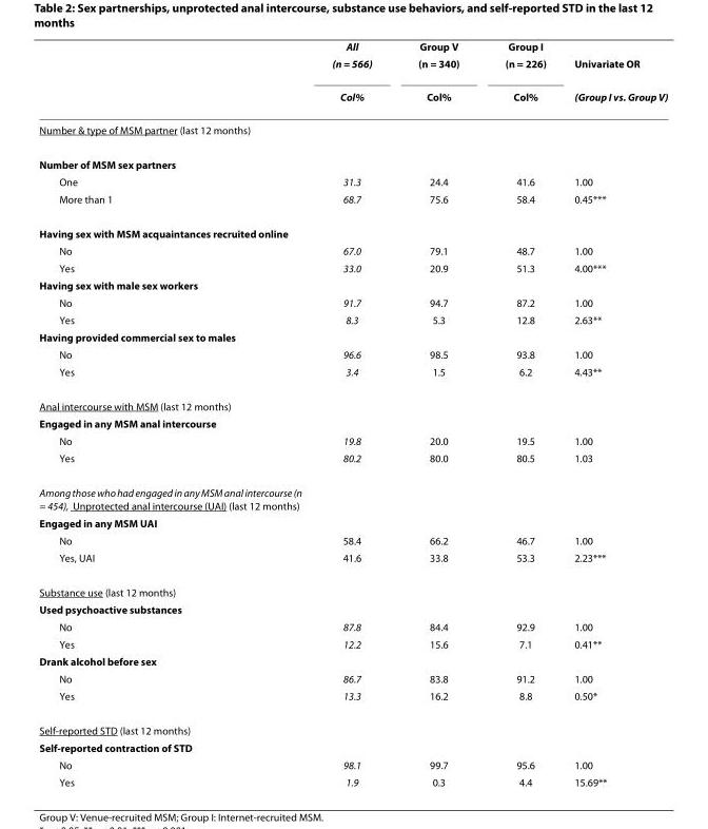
<table><thead><tr><td rowspan="3"></td><td rowspan="3">All (n = 566) Col%</td><td rowspan="3">Group V (n = 340) Col%</td><td rowspan="3">Group I (n = 226) Col%</td><td rowspan="3">Univariate OR (Group I vs. Group V)</td></tr><tr></tr><tr></tr></thead><tbody><tr><td colspan="5">Number &amp; type of MSM partner (last 12 months)</td></tr><tr><td colspan="5">Number of MSM sex partners</td></tr><tr><td>One</td><td>31.3</td><td>24.4</td><td>41.6</td><td>1.00</td></tr><tr><td>More than 1</td><td>68.7</td><td>75.6</td><td>58.4</td><td>0.45***</td></tr><tr><td colspan="5">Having sex with MSM acquaintances recruited online</td></tr><tr><td>No</td><td>67.0</td><td>79.1</td><td>48.7</td><td>1.00</td></tr><tr><td>Yes</td><td>33.0</td><td>20.9</td><td>51.3</td><td>4.00***</td></tr><tr><td colspan="5">Having sex with male sex workers</td></tr><tr><td>No</td><td>91.7</td><td>94.7</td><td>87.2</td><td>1.00</td></tr><tr><td>Yes</td><td>8.3</td><td>5.3</td><td>12.8</td><td>2.63**</td></tr><tr><td colspan="5">Having provided commercial sex to males</td></tr><tr><td>No</td><td>96.6</td><td>98.5</td><td>93.8</td><td>1.00</td></tr><tr><td>Yes</td><td>3.4</td><td>1.5</td><td>6.2</td><td>4.43**</td></tr><tr><td colspan="5">Anal intercourse with MSM (last 12 months)</td></tr><tr><td colspan="5">Engaged in any MSM anal intercourse</td></tr><tr><td>No</td><td>19.8</td><td>20.0</td><td>19.5</td><td>1.00</td></tr><tr><td>Yes</td><td>80.2</td><td>80.0</td><td>80.5</td><td>1.03</td></tr><tr><td colspan="5">Among those who had engaged in any MSM anal intercourse (n = 454), Unprotected anal intercourse (UAI) (last 12 months)</td></tr><tr><td colspan="5">Engaged in any MSM UAI</td></tr><tr><td>No</td><td>58.4</td><td>66.2</td><td>46.7</td><td>1.00</td></tr><tr><td>Yes, UAI</td><td>41.6</td><td>33.8</td><td>53.3</td><td>2.23***</td></tr><tr><td colspan="5">Substance use (last 12 months)</td></tr><tr><td colspan="5">Used psychoactive substances</td></tr><tr><td>No</td><td>87.8</td><td>84.4</td><td>92.9</td><td>1.00</td></tr><tr><td>Yes</td><td>12.2</td><td>15.6</td><td>7.1</td><td>0.41**</td></tr><tr><td colspan="5">Drank alcohol before sex</td></tr><tr><td>No</td><td>86.7</td><td>83.8</td><td>91.2</td><td>1.00</td></tr><tr><td>Yes</td><td>13.3</td><td>16.2</td><td>8.8</td><td>0.50*</td></tr><tr><td colspan="5">Self-reported STD (last 12 months)</td></tr><tr><td colspan="5">Self-reported contraction of STD</td></tr><tr><td>No</td><td>98.1</td><td>99.7</td><td>95.6</td><td>1.00</td></tr><tr><td>Yes</td><td>1.9</td><td>0.3</td><td>4.4</td><td>15.69**</td></tr></tbody></table>